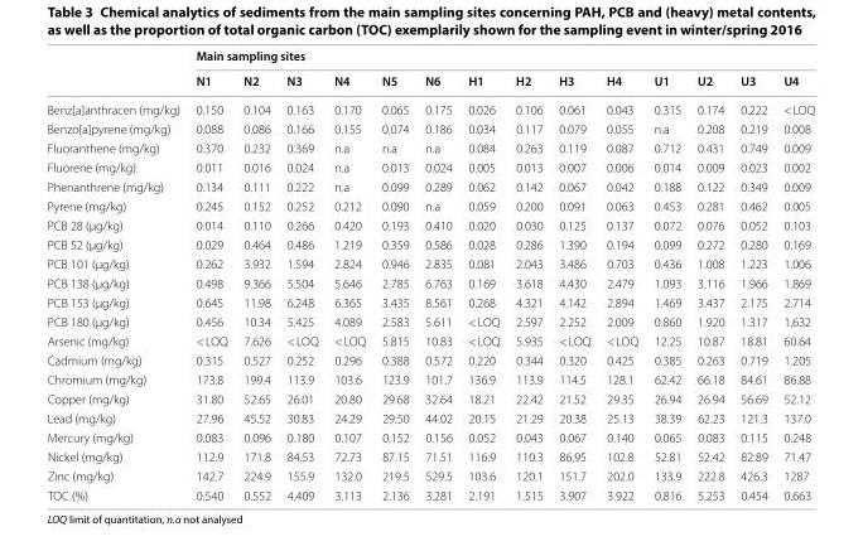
<table><thead><tr><td rowspan="2"></td><td colspan="14">Main sampling sites</td></tr><tr><td>N1</td><td>N2</td><td>N3</td><td>N4</td><td>N5</td><td>N6</td><td>H1</td><td>H2</td><td>H3</td><td>H4</td><td>U1</td><td>U2</td><td>U3</td><td>U4</td></tr></thead><tbody><tr><td>Benz[a]anthracen (mg/kg)</td><td>0.150</td><td>0.104</td><td>0.163</td><td>0.170</td><td>0.065</td><td>0.175</td><td>0.026</td><td>0.106</td><td>0.061</td><td>0.043</td><td>0.315</td><td>0.174</td><td>0.222</td><td>&lt; LOQ</td></tr><tr><td>Benzo[a]pyrene (mg/kg)</td><td>0.088</td><td>0.086</td><td>0.166</td><td>0.155</td><td>0.074</td><td>0.186</td><td>0.034</td><td>0.117</td><td>0.079</td><td>0.055</td><td>n.a</td><td>0.208</td><td>0.219</td><td>0.008</td></tr><tr><td>Fluoranthene (mg/kg)</td><td>0.370</td><td>0.232</td><td>0.369</td><td>n.a</td><td>n.a</td><td>n.a</td><td>0.084</td><td>0.263</td><td>0.119</td><td>0.087</td><td>0.712</td><td>0.431</td><td>0.749</td><td>0.009</td></tr><tr><td>Fluorene (mg/kg)</td><td>0.011</td><td>0.016</td><td>0.024</td><td>n.a</td><td>0.013</td><td>0.024</td><td>0.005</td><td>0.013</td><td>0.007</td><td>0.006</td><td>0.014</td><td>0.009</td><td>0.023</td><td>0.002</td></tr><tr><td>Phenanthrene (mg/kg)</td><td>0.134</td><td>0.111</td><td>0.222</td><td>n.a</td><td>0.099</td><td>0.289</td><td>0.062</td><td>0.142</td><td>0.067</td><td>0.042</td><td>0.188</td><td>0.122</td><td>0.349</td><td>0.009</td></tr><tr><td>Pyrene (mg/kg)</td><td>0.245</td><td>0.152</td><td>0.252</td><td>0.212</td><td>0.090</td><td>n.a</td><td>0.059</td><td>0.200</td><td>0.091</td><td>0.063</td><td>0.453</td><td>0.281</td><td>0.462</td><td>0.005</td></tr><tr><td>PCB 28 (µg/kg)</td><td>0.014</td><td>0.110</td><td>0.266</td><td>0.420</td><td>0.193</td><td>0.410</td><td>0.020</td><td>0.030</td><td>0.125</td><td>0.137</td><td>0.072</td><td>0.076</td><td>0.052</td><td>0.103</td></tr><tr><td>PCB 52 (µg/kg)</td><td>0.029</td><td>0.464</td><td>0.486</td><td>1.219</td><td>0.359</td><td>0.586</td><td>0.028</td><td>0.286</td><td>1.390</td><td>0.194</td><td>0.099</td><td>0.272</td><td>0.280</td><td>0.169</td></tr><tr><td>PCB 101 (µg/kg)</td><td>0.262</td><td>3.932</td><td>1.594</td><td>2.824</td><td>0.946</td><td>2.835</td><td>0.081</td><td>2.043</td><td>3.486</td><td>0.703</td><td>0.436</td><td>1.008</td><td>1.223</td><td>1.006</td></tr><tr><td>PCB 138 (µg/kg)</td><td>0.498</td><td>9.366</td><td>5.504</td><td>5.646</td><td>2.785</td><td>6.763</td><td>0.169</td><td>3.618</td><td>4.430</td><td>2.479</td><td>1.093</td><td>3.116</td><td>1.966</td><td>1.869</td></tr><tr><td>PCB 153 (µg/kg)</td><td>0.645</td><td>11.98</td><td>6.248</td><td>6.365</td><td>3.435</td><td>8.561</td><td>0.268</td><td>4.321</td><td>4.142</td><td>2.894</td><td>1.469</td><td>3.437</td><td>2.175</td><td>2.714</td></tr><tr><td>PCB 180 (µg/kg)</td><td>0.456</td><td>10.34</td><td>5.425</td><td>4.089</td><td>2.583</td><td>5.611</td><td>&lt; LOQ</td><td>2.597</td><td>2.252</td><td>2.009</td><td>0.860</td><td>1.920</td><td>1.317</td><td>1.632</td></tr><tr><td>Arsenic (mg/kg)</td><td>&lt; LOQ</td><td>7.626</td><td>&lt; LOQ</td><td>&lt; LOQ</td><td>5.815</td><td>10.83</td><td>&lt; LOQ</td><td>5.935</td><td>&lt; LOQ</td><td>&lt; LOQ</td><td>12.25</td><td>10.87</td><td>18.81</td><td>60.64</td></tr><tr><td>Cadmium (mg/kg)</td><td>0.315</td><td>0.527</td><td>0.252</td><td>0.296</td><td>0.388</td><td>0.572</td><td>0.220</td><td>0.344</td><td>0.320</td><td>0.425</td><td>0.385</td><td>0.263</td><td>0.719</td><td>1.205</td></tr><tr><td>Chromium (mg/kg)</td><td>173.8</td><td>199.4</td><td>113.9</td><td>103.6</td><td>123.9</td><td>101.7</td><td>136.9</td><td>113.9</td><td>114.5</td><td>128.1</td><td>62.42</td><td>66.18</td><td>84.61</td><td>86.88</td></tr><tr><td>Copper (mg/kg)</td><td>31.80</td><td>52.65</td><td>26.01</td><td>20.80</td><td>29.68</td><td>32.64</td><td>18.21</td><td>22.42</td><td>21.52</td><td>29.35</td><td>26.94</td><td>26.94</td><td>56.69</td><td>52.12</td></tr><tr><td>Lead (mg/kg)</td><td>27.96</td><td>45.52</td><td>30.83</td><td>24.29</td><td>29.50</td><td>44.02</td><td>20.15</td><td>21.29</td><td>20.38</td><td>25.13</td><td>38.39</td><td>62.23</td><td>121.3</td><td>137.0</td></tr><tr><td>Mercury (mg/kg)</td><td>0.083</td><td>0.096</td><td>0.180</td><td>0.107</td><td>0.152</td><td>0.156</td><td>0.052</td><td>0.043</td><td>0.067</td><td>0.140</td><td>0.065</td><td>0.083</td><td>0.115</td><td>0.248</td></tr><tr><td>Nickel (mg/kg)</td><td>112.9</td><td>171.8</td><td>84.53</td><td>72.73</td><td>87.15</td><td>71.51</td><td>116.9</td><td>110.3</td><td>86.95</td><td>102.8</td><td>52.81</td><td>52.42</td><td>82.89</td><td>71.47</td></tr><tr><td>Zinc (mg/kg)</td><td>142.7</td><td>224.9</td><td>155.9</td><td>132.0</td><td>219.5</td><td>529.5</td><td>103.6</td><td>120.1</td><td>151.7</td><td>202.0</td><td>133.9</td><td>222.8</td><td>426.3</td><td>1287</td></tr><tr><td>TOC (%)</td><td>0.540</td><td>0.552</td><td>4.409</td><td>3.113</td><td>2.136</td><td>3.281</td><td>2.191</td><td>1.515</td><td>3.907</td><td>3.922</td><td>0.816</td><td>5.253</td><td>0.454</td><td>0.663</td></tr></tbody></table>